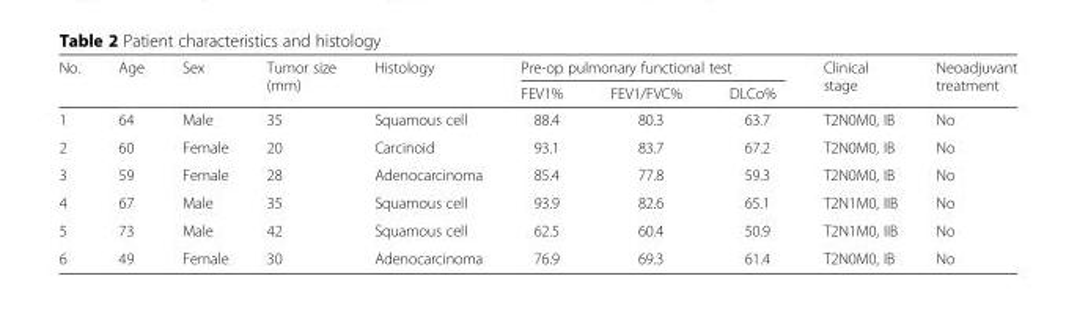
<table><thead><tr><td rowspan="2">No.</td><td rowspan="2">Age</td><td rowspan="2">Sex</td><td rowspan="2">Tumor size (mm)</td><td rowspan="2">Histology</td><td colspan="3">Pre-op pulmonary functional test</td><td rowspan="2">Clinical stage</td><td rowspan="2">Neoadjuvant treatment</td></tr><tr><td>FEV1%</td><td>FEV1/FVC%</td><td>DLCo%</td></tr></thead><tbody><tr><td>1</td><td>64</td><td>Male</td><td>35</td><td>Squamous cell</td><td>88.4</td><td>80.3</td><td>63.7</td><td>T2N0M0, IB</td><td>No</td></tr><tr><td>2</td><td>60</td><td>Female</td><td>20</td><td>Carcinoid</td><td>93.1</td><td>83.7</td><td>67.2</td><td>T2N0M0, IB</td><td>No</td></tr><tr><td>3</td><td>59</td><td>Female</td><td>28</td><td>Adenocarcinoma</td><td>85.4</td><td>77.8</td><td>59.3</td><td>T2N0M0, IB</td><td>No</td></tr><tr><td>4</td><td>67</td><td>Male</td><td>35</td><td>Squamous cell</td><td>93.9</td><td>82.6</td><td>65.1</td><td>T2N1M0, IIB</td><td>No</td></tr><tr><td>5</td><td>73</td><td>Male</td><td>42</td><td>Squamous cell</td><td>62.5</td><td>60.4</td><td>50.9</td><td>T2N1M0, IIB</td><td>No</td></tr><tr><td>6</td><td>49</td><td>Female</td><td>30</td><td>Adenocarcinoma</td><td>76.9</td><td>69.3</td><td>61.4</td><td>T2N0M0, IB</td><td>No</td></tr></tbody></table>